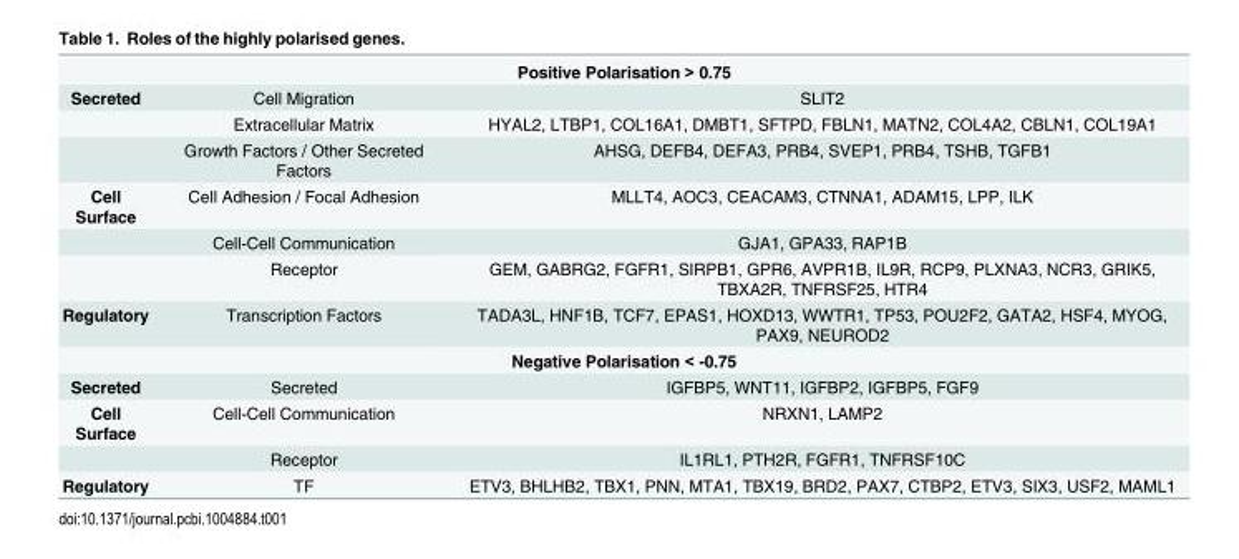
<table><tbody><tr><td colspan="3">Positive Polarisation &gt; 0.75</td></tr><tr><td rowspan="3">Secreted</td><td>Cell Migration</td><td>SLIT2</td></tr><tr><td>Extracellular Matrix</td><td>HYAL2, LTBP1, COL16A1, DMBT1, SFTPD, FBLN1, MATN2, COL4A2, CBLN1, COL19A1</td></tr><tr><td>Growth Factors / Other Secreted Factors</td><td>AHSG, DEFB4, DEFA3, PRB4, SVEP1, PRB4, TSHB, TGFB1</td></tr><tr><td rowspan="3">Cell Surface</td><td>Cell Adhesion / Focal Adhesion</td><td>MLLT4, AOC3, CEACAM3, CTNNA1, ADAM15, LPP, ILK</td></tr><tr><td>Cell-Cell Communication</td><td>GJA1, GPA33, RAP1B</td></tr><tr><td>Receptor</td><td>GEM, GABRG2, FGFR1, SIRPB1, GPR6, AVPR1B, IL9R, RCP9, PLXNA3, NCR3, GRIK5, TBXA2R, TNFRSF25, HTR4</td></tr><tr><td>Regulatory</td><td>Transcription Factors</td><td>TADA3L, HNF1B, TCF7, EPAS1, HOXD13, WWTR1, TP53, POU2F2, GATA2, HSF4, MYOG, PAX9, NEUROD2</td></tr><tr><td colspan="3">Negative Polarisation &lt; -0.75</td></tr><tr><td>Secreted</td><td>Secreted</td><td>IGFBP5, WNT11, IGFBP2, IGFBP5, FGF9</td></tr><tr><td rowspan="2">Cell Surface</td><td>Cell-Cell Communication</td><td>NRXN1, LAMP2</td></tr><tr><td>Receptor</td><td>IL1RL1, PTH2R, FGFR1, TNFRSF10C</td></tr><tr><td>Regulatory</td><td>TF</td><td>ETV3, BHLHB2, TBX1, PNN, MTA1, TBX19, BRD2, PAX7, CTBP2, ETV3, SIX3, USF2, MAML1</td></tr></tbody></table>